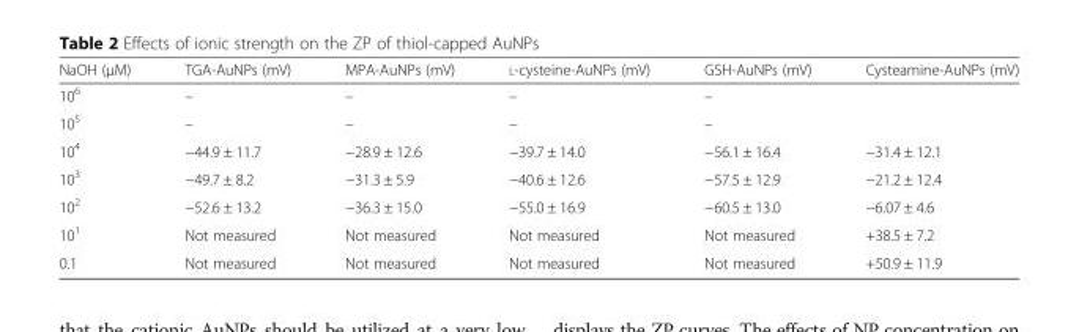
<table><thead><tr><td>NaOH (μM)</td><td>TGA-AuNPs (mV)</td><td>MPA-AuNPs (mV)</td><td>L-cysteine-AuNPs (mV)</td><td>GSH-AuNPs (mV)</td><td>Cysteamine-AuNPs (mV)</td></tr></thead><tbody><tr><td>10<sup>6</sup></td><td>–</td><td>–</td><td>–</td><td>–</td><td></td></tr><tr><td>10<sup>5</sup></td><td>–</td><td>–</td><td>–</td><td>–</td><td></td></tr><tr><td>10<sup>4</sup></td><td>−44.9 ± 11.7</td><td>−28.9 ± 12.6</td><td>−39.7 ± 14.0</td><td>−56.1 ± 16.4</td><td>−31.4 ± 12.1</td></tr><tr><td>10<sup>3</sup></td><td>−49.7 ± 8.2</td><td>−31.3 ± 5.9</td><td>−40.6 ± 12.6</td><td>−57.5 ± 12.9</td><td>−21.2 ± 12.4</td></tr><tr><td>10<sup>2</sup></td><td>−52.6 ± 13.2</td><td>−36.3 ± 15.0</td><td>−55.0 ± 16.9</td><td>−60.5 ± 13.0</td><td>−6.07 ± 4.6</td></tr><tr><td>10<sup>1</sup></td><td>Not measured</td><td>Not measured</td><td>Not measured</td><td>Not measured</td><td>+38.5 ± 7.2</td></tr><tr><td>0.1</td><td>Not measured</td><td>Not measured</td><td>Not measured</td><td>Not measured</td><td>+50.9 ± 11.9</td></tr></tbody></table>